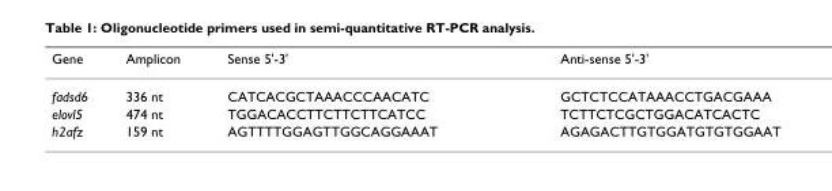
<table><thead><tr><td>Gene</td><td>Amplicon</td><td>Sense 5&#x27;-3&#x27;</td><td>Anti-sense 5&#x27;-3&#x27;</td></tr></thead><tbody><tr><td>fadsd6</td><td>336 nt</td><td>CATCACGCTAAACCCAACATC</td><td>GCTCTCCATAAACCTGACGAAA</td></tr><tr><td>elovl5</td><td>474 nt</td><td>TGGACACCTTCTTCTTCATCC</td><td>TCTTCTCGCTGGACATCACTC</td></tr><tr><td>h2afz</td><td>159 nt</td><td>AGTTTTGGAGTTGGCAGGAAAT</td><td>AGAGACTTGTGGATGTGTGGAAT</td></tr></tbody></table>